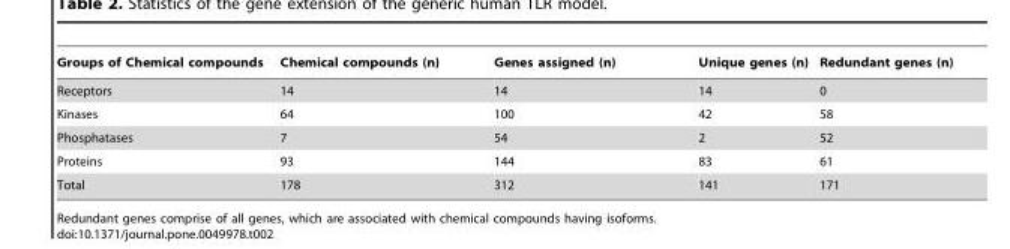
<table><thead><tr><td>Groups of Chemical compounds</td><td>Chemical compounds (n)</td><td>Genes assigned (n)</td><td>Unique genes (n)</td><td>Redundant genes (n)</td></tr></thead><tbody><tr><td>Receptors</td><td>14</td><td>14</td><td>14</td><td>0</td></tr><tr><td>Kinases</td><td>64</td><td>100</td><td>42</td><td>58</td></tr><tr><td>Phosphatases</td><td>7</td><td>54</td><td>2</td><td>52</td></tr><tr><td>Proteins</td><td>93</td><td>144</td><td>83</td><td>61</td></tr><tr><td>Total</td><td>178</td><td>312</td><td>141</td><td>171</td></tr></tbody></table>